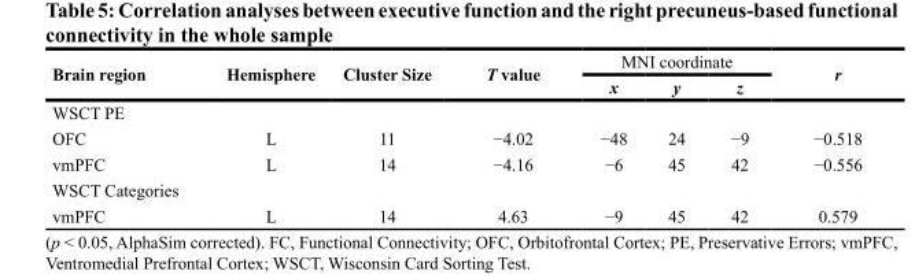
<table><thead><tr><td rowspan="2">Brain region</td><td rowspan="2">Hemisphere</td><td rowspan="2">Cluster Size</td><td rowspan="2">T value</td><td colspan="3">MNI coordinate</td><td rowspan="2">r</td></tr><tr><td>x</td><td>y</td><td>z</td></tr></thead><tbody><tr><td colspan="8">WSCT PE</td></tr><tr><td>OFC</td><td>L</td><td>11</td><td>−4.02</td><td>−48</td><td>24</td><td>−9</td><td>−0.518</td></tr><tr><td>vmPFC</td><td>L</td><td>14</td><td>−4.16</td><td>−6</td><td>45</td><td>42</td><td>−0.556</td></tr><tr><td colspan="8">WSCT Categories</td></tr><tr><td>vmPFC</td><td>L</td><td>14</td><td>4.63</td><td>−9</td><td>45</td><td>42</td><td>0.579</td></tr></tbody></table>